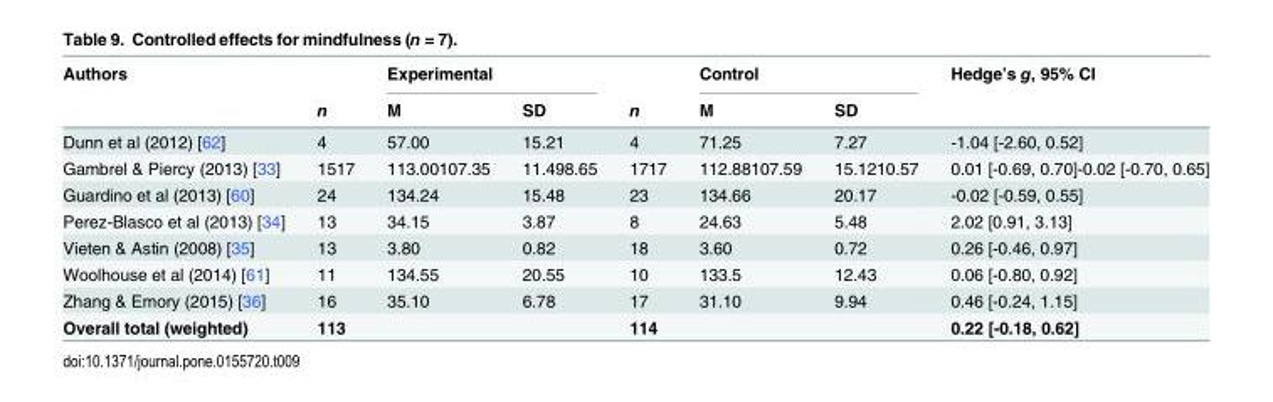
<table><thead><tr><td rowspan="2">Authors</td><td rowspan="2">n</td><td colspan="2">Experimental</td><td rowspan="2">n</td><td colspan="2">Control</td><td rowspan="2">Hedge’s g, 95% CI</td></tr><tr><td>M</td><td>SD</td><td>M</td><td>SD</td></tr></thead><tbody><tr><td>Dunn et al (2012) [62]</td><td>4</td><td>57.00</td><td>15.21</td><td>4</td><td>71.25</td><td>7.27</td><td>-1.04 [-2.60, 0.52]</td></tr><tr><td>Gambrel &amp; Piercy (2013) [33]</td><td>1517</td><td>113.00107.35</td><td>11.498.65</td><td>1717</td><td>112.88107.59</td><td>15.1210.57</td><td>0.01 [-0.69, 0.70]-0.02 [-0.70, 0.65]</td></tr><tr><td>Guardino et al (2013) [60]</td><td>24</td><td>134.24</td><td>15.48</td><td>23</td><td>134.66</td><td>20.17</td><td>-0.02 [-0.59, 0.55]</td></tr><tr><td>Perez-Blasco et al (2013) [34]</td><td>13</td><td>34.15</td><td>3.87</td><td>8</td><td>24.63</td><td>5.48</td><td>2.02 [0.91, 3.13]</td></tr><tr><td>Vieten &amp; Astin (2008) [35]</td><td>13</td><td>3.80</td><td>0.82</td><td>18</td><td>3.60</td><td>0.72</td><td>0.26 [-0.46, 0.97]</td></tr><tr><td>Woolhouse et al (2014) [61]</td><td>11</td><td>134.55</td><td>20.55</td><td>10</td><td>133.5</td><td>12.43</td><td>0.06 [-0.80, 0.92]</td></tr><tr><td>Zhang &amp; Emory (2015) [36]</td><td>16</td><td>35.10</td><td>6.78</td><td>17</td><td>31.10</td><td>9.94</td><td>0.46 [-0.24, 1.15]</td></tr><tr><td>Overall total (weighted)</td><td>113</td><td></td><td></td><td>114</td><td></td><td></td><td>0.22 [-0.18, 0.62]</td></tr></tbody></table>